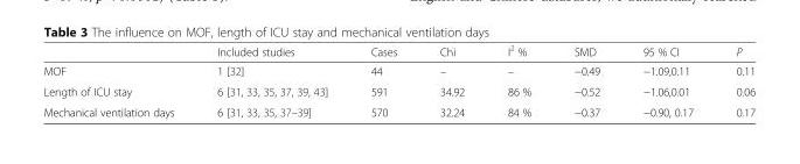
<table><thead><tr><td></td><td>Included studies</td><td>Cases</td><td>Chi</td><td>I<sup>2</sup> %</td><td>SMD</td><td>95 % CI</td><td>P</td></tr></thead><tbody><tr><td>MOF</td><td>1 [32]</td><td>44</td><td>–</td><td>–</td><td>−0.49</td><td>−1.09,0.11</td><td>0.11</td></tr><tr><td>Length of ICU stay</td><td>6 [31, 33, 35, 37, 39, 43]</td><td>591</td><td>34.92</td><td>86 %</td><td>−0.52</td><td>−1.06,0.01</td><td>0.06</td></tr><tr><td>Mechanical ventilation days</td><td>6 [31, 33, 35, 37–39]</td><td>570</td><td>32.24</td><td>84 %</td><td>−0.37</td><td>−0.90, 0.17</td><td>0.17</td></tr></tbody></table>